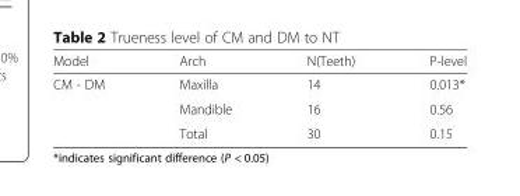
<table><thead><tr><td>Model</td><td>Arch</td><td>N(Teeth)</td><td>P-level</td></tr></thead><tbody><tr><td rowspan="3">CM - DM</td><td>Maxilla</td><td>14</td><td>0.013*</td></tr><tr><td>Mandible</td><td>16</td><td>0.56</td></tr><tr><td>Total</td><td>30</td><td>0.15</td></tr></tbody></table>